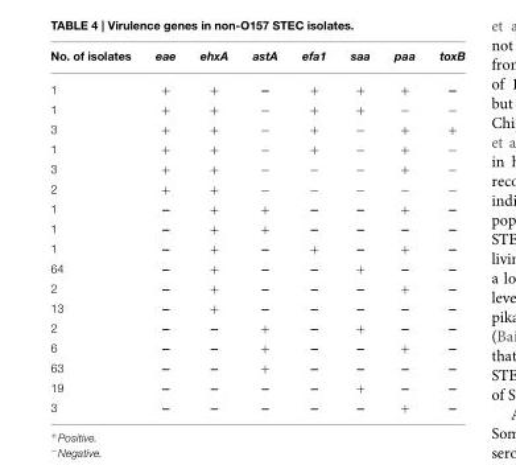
<table><thead><tr><td>No. of isolates</td><td>eae</td><td>ehxA</td><td>astA</td><td>efa1</td><td>saa</td><td>paa</td><td>toxB</td></tr></thead><tbody><tr><td>1</td><td>+</td><td>+</td><td>−</td><td>+</td><td>+</td><td>+</td><td>−</td></tr><tr><td>1</td><td>+</td><td>+</td><td>−</td><td>+</td><td>+</td><td>−</td><td>−</td></tr><tr><td>3</td><td>+</td><td>+</td><td>−</td><td>+</td><td>−</td><td>+</td><td>+</td></tr><tr><td>1</td><td>+</td><td>+</td><td>−</td><td>+</td><td>−</td><td>+</td><td>−</td></tr><tr><td>3</td><td>+</td><td>+</td><td>−</td><td>−</td><td>−</td><td>+</td><td>−</td></tr><tr><td>2</td><td>+</td><td>+</td><td>−</td><td>−</td><td>−</td><td>−</td><td>−</td></tr><tr><td>1</td><td>−</td><td>+</td><td>+</td><td>−</td><td>−</td><td>+</td><td>−</td></tr><tr><td>1</td><td>−</td><td>+</td><td>+</td><td>−</td><td>−</td><td>−</td><td>−</td></tr><tr><td>1</td><td>−</td><td>+</td><td>−</td><td>+</td><td>−</td><td>+</td><td>−</td></tr><tr><td>64</td><td>−</td><td>+</td><td>−</td><td>−</td><td>+</td><td>−</td><td>−</td></tr><tr><td>2</td><td>−</td><td>+</td><td>−</td><td>−</td><td>−</td><td>+</td><td>−</td></tr><tr><td>13</td><td>−</td><td>+</td><td>−</td><td>−</td><td>−</td><td>−</td><td>−</td></tr><tr><td>2</td><td>−</td><td>−</td><td>+</td><td>−</td><td>+</td><td>−</td><td>−</td></tr><tr><td>6</td><td>−</td><td>−</td><td>+</td><td>−</td><td>−</td><td>+</td><td>−</td></tr><tr><td>63</td><td>−</td><td>−</td><td>+</td><td>−</td><td>−</td><td>−</td><td>−</td></tr><tr><td>19</td><td>−</td><td>−</td><td>−</td><td>−</td><td>+</td><td>−</td><td>−</td></tr><tr><td>3</td><td>−</td><td>−</td><td>−</td><td>−</td><td>−</td><td>+</td><td>−</td></tr></tbody></table>